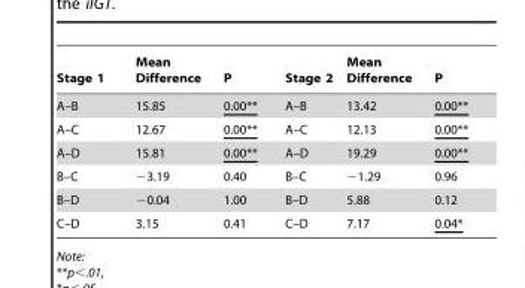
<table><thead><tr><td>Stage 1</td><td>Mean Difference</td><td>P</td><td>Stage 2</td><td>Mean Difference</td><td>P</td></tr></thead><tbody><tr><td>A–B</td><td>15.85</td><td>0.00**</td><td>A–B</td><td>13.42</td><td>0.00**</td></tr><tr><td>A–C</td><td>12.67</td><td>0.00**</td><td>A–C</td><td>12.13</td><td>0.00**</td></tr><tr><td>A–D</td><td>15.81</td><td>0.00**</td><td>A–D</td><td>19.29</td><td>0.00**</td></tr><tr><td>B–C</td><td>−3.19</td><td>0.40</td><td>B–C</td><td>−1.29</td><td>0.96</td></tr><tr><td>B–D</td><td>−0.04</td><td>1.00</td><td>B–D</td><td>5.88</td><td>0.12</td></tr><tr><td>C–D</td><td>3.15</td><td>0.41</td><td>C–D</td><td>7.17</td><td>0.04*</td></tr></tbody></table>